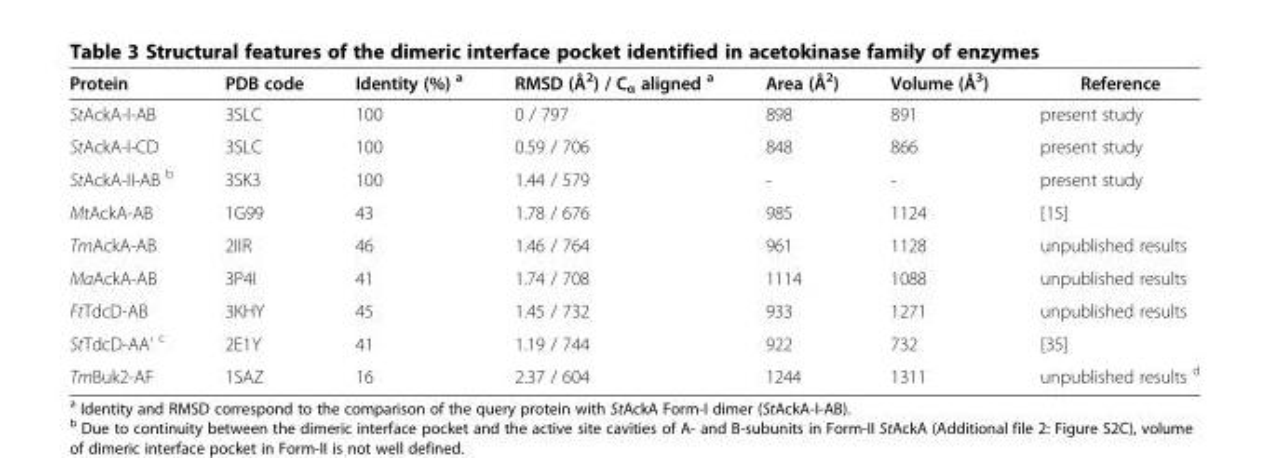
<table><thead><tr><td>Protein</td><td>PDB code</td><td>Identity (%) <sup>a</sup></td><td>RMSD (Å<sup>2</sup>) / C<sub>α</sub> aligned <sup>a</sup></td><td>Area (Å<sup>2</sup>)</td><td>Volume (Å<sup>3</sup>)</td><td>Reference</td></tr></thead><tbody><tr><td>StAckA-I-AB</td><td>3SLC</td><td>100</td><td>0 / 797</td><td>898</td><td>891</td><td>present study</td></tr><tr><td>StAckA-I-CD</td><td>3SLC</td><td>100</td><td>0.59 / 706</td><td>848</td><td>866</td><td>present study</td></tr><tr><td>StAckA-II-AB <sup>b</sup></td><td>3SK3</td><td>100</td><td>1.44 / 579</td><td>-</td><td>-</td><td>present study</td></tr><tr><td>MtAckA-AB</td><td>1G99</td><td>43</td><td>1.78 / 676</td><td>985</td><td>1124</td><td>[15]</td></tr><tr><td>TmAckA-AB</td><td>2IIR</td><td>46</td><td>1.46 / 764</td><td>961</td><td>1128</td><td>unpublished results</td></tr><tr><td>MaAckA-AB</td><td>3P4I</td><td>41</td><td>1.74 / 708</td><td>1114</td><td>1088</td><td>unpublished results</td></tr><tr><td>FtTdcD-AB</td><td>3KHY</td><td>45</td><td>1.45 / 732</td><td>933</td><td>1271</td><td>unpublished results</td></tr><tr><td>StTdcD-AA&#x27; <sup>c</sup></td><td>2E1Y</td><td>41</td><td>1.19 / 744</td><td>922</td><td>732</td><td>[35]</td></tr><tr><td>TmBuk2-AF</td><td>1SAZ</td><td>16</td><td>2.37 / 604</td><td>1244</td><td>1311</td><td>unpublished results <sup>d</sup></td></tr></tbody></table>